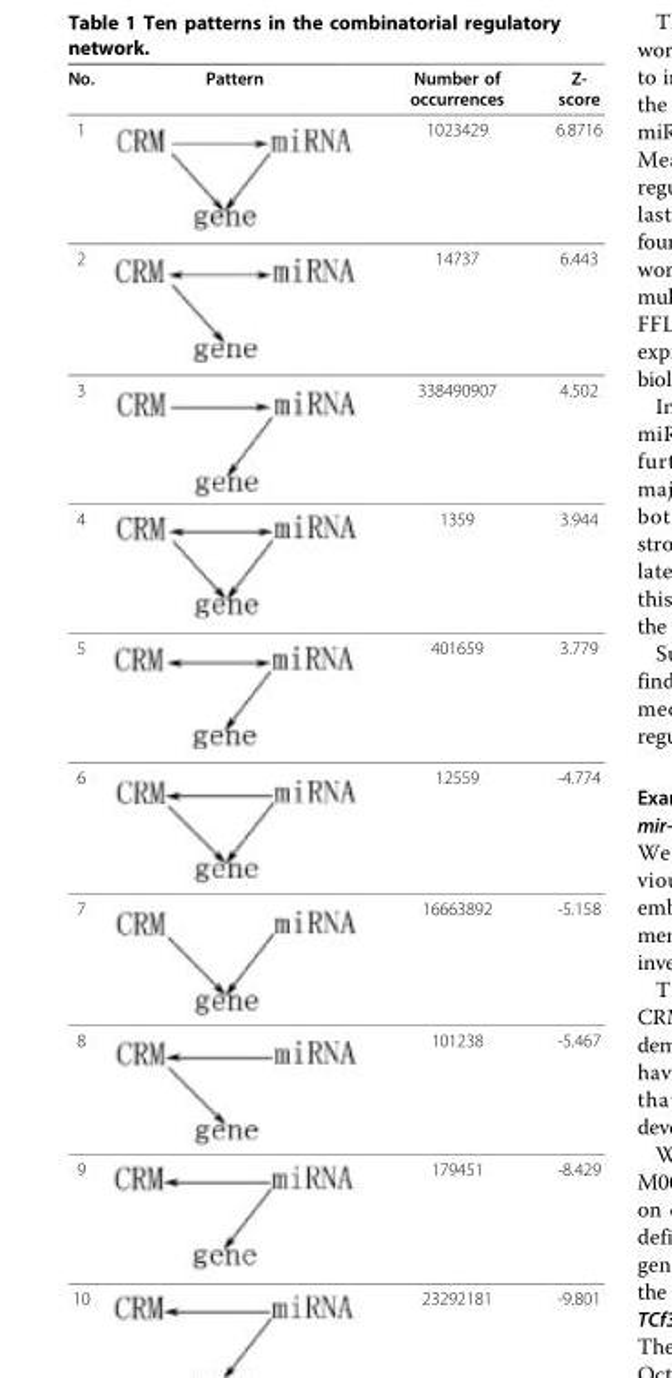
<table><thead><tr><td>No.</td><td>Pattern</td><td>Number of occurrences</td><td>Z- score</td></tr></thead><tbody><tr><td>1</td><td></td><td>1023429</td><td>6.8716</td></tr><tr><td>2</td><td></td><td>14737</td><td>6.443</td></tr><tr><td>3</td><td></td><td>338490907</td><td>4.502</td></tr><tr><td>4</td><td></td><td>1359</td><td>3.944</td></tr><tr><td>5</td><td></td><td>401659</td><td>3.779</td></tr><tr><td>6</td><td></td><td>12559</td><td>-4.774</td></tr><tr><td>7</td><td></td><td>16663892</td><td>-5.158</td></tr><tr><td>8</td><td></td><td>101238</td><td>-5.467</td></tr><tr><td>9</td><td></td><td>179451</td><td>-8.429</td></tr><tr><td>10</td><td></td><td>23292181</td><td>-9.801</td></tr></tbody></table>